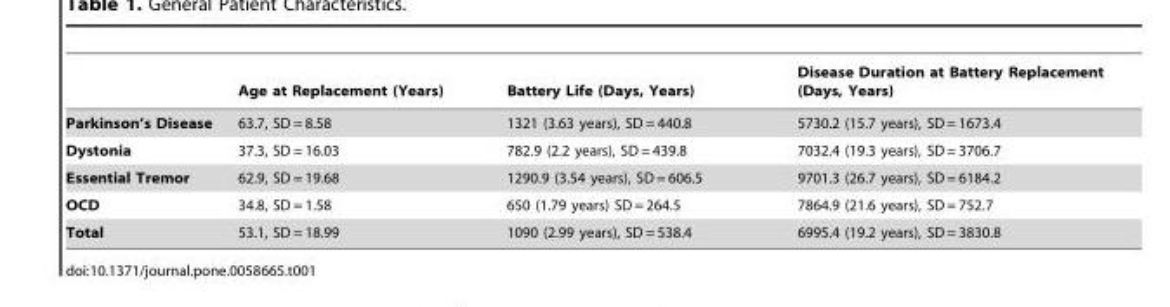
<table><thead><tr><td></td><td>Age at Replacement (Years)</td><td>Battery Life (Days, Years)</td><td>Disease Duration at Battery Replacement (Days, Years)</td></tr></thead><tbody><tr><td>Parkinson’s Disease</td><td>63.7, SD = 8.58</td><td>1321 (3.63 years), SD = 440.8</td><td>5730.2 (15.7 years), SD = 1673.4</td></tr><tr><td>Dystonia</td><td>37.3, SD = 16.03</td><td>782.9 (2.2 years), SD = 439.8</td><td>7032.4 (19.3 years), SD = 3706.7</td></tr><tr><td>Essential Tremor</td><td>62.9, SD = 19.68</td><td>1290.9 (3.54 years), SD = 606.5</td><td>9701.3 (26.7 years), SD = 6184.2</td></tr><tr><td>OCD</td><td>34.8, SD = 1.58</td><td>650 (1.79 years) SD = 264.5</td><td>7864.9 (21.6 years), SD = 752.7</td></tr><tr><td>Total</td><td>53.1, SD = 18.99</td><td>1090 (2.99 years), SD = 538.4</td><td>6995.4 (19.2 years), SD = 3830.8</td></tr></tbody></table>